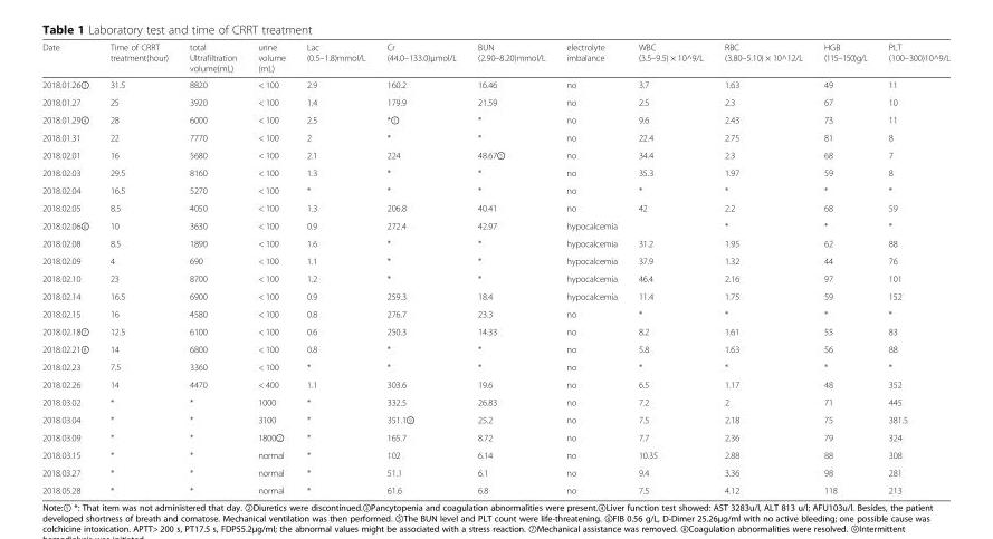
<table><thead><tr><td>Date</td><td>Time of CRRT treatment(hour)</td><td>total Ultrafiltration volume(mL)</td><td>urine volume (mL)</td><td>Lac (0.5–1.8)mmol/L</td><td>Cr (44.0–133.0)μmol/L</td><td>BUN (2.90–8.20)mmol/L</td><td>electrolyte imbalance</td><td>WBC (3.5–9.5) × 10^9/L</td><td>RBC (3.80–5.10) × 10^12/L</td><td>HGB (115–150)g/L</td><td>PLT (100–300)10^9/L</td></tr></thead><tbody><tr><td>2018.01.26③</td><td>31.5</td><td>8820</td><td>&lt; 100</td><td>2.9</td><td>160.2</td><td>16.46</td><td>no</td><td>3.7</td><td>1.63</td><td>49</td><td>11</td></tr><tr><td>2018.01.27</td><td>25</td><td>3920</td><td>&lt; 100</td><td>1.4</td><td>179.9</td><td>21.59</td><td>no</td><td>2.5</td><td>2.3</td><td>67</td><td>10</td></tr><tr><td>2018.01.29④</td><td>28</td><td>6000</td><td>&lt; 100</td><td>2.5</td><td>*①</td><td>*</td><td>no</td><td>9.6</td><td>2.43</td><td>73</td><td>11</td></tr><tr><td>2018.01.31</td><td>22</td><td>7770</td><td>&lt; 100</td><td>2</td><td>*</td><td>*</td><td>no</td><td>22.4</td><td>2.75</td><td>81</td><td>8</td></tr><tr><td>2018.02.01</td><td>16</td><td>5680</td><td>&lt; 100</td><td>2.1</td><td>224</td><td>48.67⑤</td><td>no</td><td>34.4</td><td>2.3</td><td>68</td><td>7</td></tr><tr><td>2018.02.03</td><td>29.5</td><td>8160</td><td>&lt; 100</td><td>1.3</td><td>*</td><td>*</td><td>no</td><td>35.3</td><td>1.97</td><td>59</td><td>8</td></tr><tr><td>2018.02.04</td><td>16.5</td><td>5270</td><td>&lt; 100</td><td>*</td><td>*</td><td>*</td><td>no</td><td>*</td><td>*</td><td>*</td><td>*</td></tr><tr><td>2018.02.05</td><td>8.5</td><td>4050</td><td>&lt; 100</td><td>1.3</td><td>206.8</td><td>40.41</td><td>no</td><td>42</td><td>2.2</td><td>68</td><td>59</td></tr><tr><td>2018.02.06⑥</td><td>10</td><td>3630</td><td>&lt; 100</td><td>0.9</td><td>272.4</td><td>42.97</td><td>hypocalcemia</td><td></td><td>*</td><td>*</td><td>*</td></tr><tr><td>2018.02.08</td><td>8.5</td><td>1890</td><td>&lt; 100</td><td>1.6</td><td>*</td><td>*</td><td>hypocalcemia</td><td>31.2</td><td>1.95</td><td>62</td><td>88</td></tr><tr><td>2018.02.09</td><td>4</td><td>690</td><td>&lt; 100</td><td>1.1</td><td>*</td><td>*</td><td>hypocalcemia</td><td>37.9</td><td>1.32</td><td>44</td><td>76</td></tr><tr><td>2018.02.10</td><td>23</td><td>8700</td><td>&lt; 100</td><td>1.2</td><td>*</td><td>*</td><td>hypocalcemia</td><td>46.4</td><td>2.16</td><td>97</td><td>101</td></tr><tr><td>2018.02.14</td><td>16.5</td><td>6900</td><td>&lt; 100</td><td>0.9</td><td>259.3</td><td>18.4</td><td>hypocalcemia</td><td>11.4</td><td>1.75</td><td>59</td><td>152</td></tr><tr><td>2018.02.15</td><td>16</td><td>4580</td><td>&lt; 100</td><td>0.8</td><td>276.7</td><td>23.3</td><td>no</td><td>*</td><td>*</td><td>*</td><td>*</td></tr><tr><td>2018.02.18⑦</td><td>12.5</td><td>6100</td><td>&lt; 100</td><td>0.6</td><td>250.3</td><td>14.33</td><td>no</td><td>8.2</td><td>1.61</td><td>55</td><td>83</td></tr><tr><td>2018.02.21⑧</td><td>14</td><td>6800</td><td>&lt; 100</td><td>0.8</td><td>*</td><td>*</td><td>no</td><td>5.8</td><td>1.63</td><td>56</td><td>88</td></tr><tr><td>2018.02.23</td><td>7.5</td><td>3360</td><td>&lt; 100</td><td>*</td><td>*</td><td>*</td><td>no</td><td>*</td><td>*</td><td>*</td><td>*</td></tr><tr><td>2018.02.26</td><td>14</td><td>4470</td><td>&lt; 400</td><td>1.1</td><td>303.6</td><td>19.6</td><td>no</td><td>6.5</td><td>1.17</td><td>48</td><td>352</td></tr><tr><td>2018.03.02</td><td>*</td><td>*</td><td>1000</td><td>*</td><td>332.5</td><td>26.83</td><td>no</td><td>7.2</td><td>2</td><td>71</td><td>445</td></tr><tr><td>2018.03.04</td><td>*</td><td>*</td><td>3100</td><td>*</td><td>351.1⑨</td><td>25.2</td><td>no</td><td>7.5</td><td>2.18</td><td>75</td><td>381.5</td></tr><tr><td>2018.03.09</td><td>*</td><td>*</td><td>1800②</td><td>*</td><td>165.7</td><td>8.72</td><td>no</td><td>7.7</td><td>2.36</td><td>79</td><td>324</td></tr><tr><td>2018.03.15</td><td>*</td><td>*</td><td>normal</td><td>*</td><td>102</td><td>6.14</td><td>no</td><td>10.35</td><td>2.88</td><td>88</td><td>308</td></tr><tr><td>2018.03.27</td><td>*</td><td>*</td><td>normal</td><td>*</td><td>51.1</td><td>6.1</td><td>no</td><td>9.4</td><td>3.36</td><td>98</td><td>281</td></tr><tr><td>2018.05.28</td><td>*</td><td>*</td><td>normal</td><td>*</td><td>61.6</td><td>6.8</td><td>no</td><td>7.5</td><td>4.12</td><td>118</td><td>213</td></tr></tbody></table>